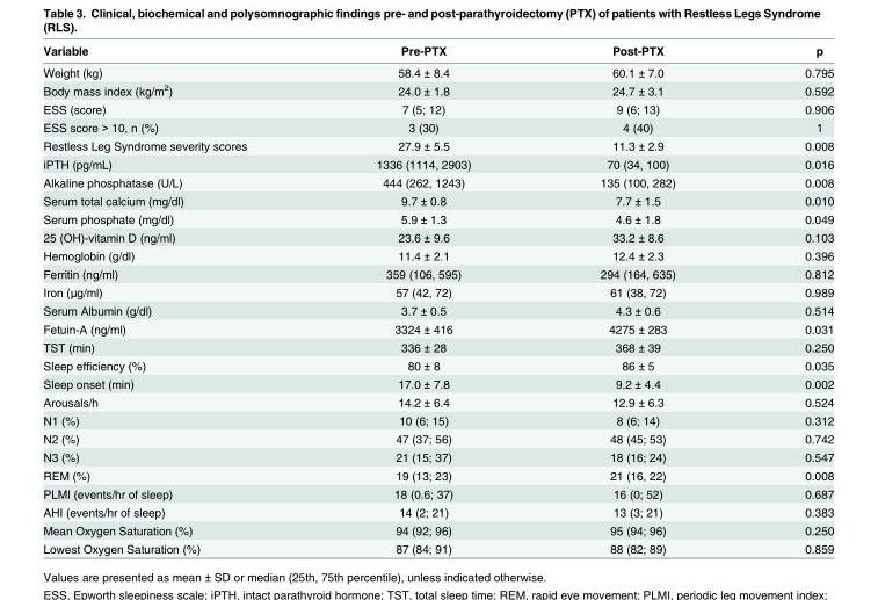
<table><thead><tr><td>Variable</td><td>Pre-PTX</td><td>Post-PTX</td><td>p</td></tr></thead><tbody><tr><td>Weight (kg)</td><td>58.4 ± 8.4</td><td>60.1 ± 7.0</td><td>0.795</td></tr><tr><td>Body mass index (kg/m<sup>2</sup>)</td><td>24.0 ± 1.8</td><td>24.7 ± 3.1</td><td>0.592</td></tr><tr><td>ESS (score)</td><td>7 (5; 12)</td><td>9 (6; 13)</td><td>0.906</td></tr><tr><td>ESS score &gt; 10, n (%)</td><td>3 (30)</td><td>4 (40)</td><td>1</td></tr><tr><td>Restless Leg Syndrome severity scores</td><td>27.9 ± 5.5</td><td>11.3 ± 2.9</td><td>0.008</td></tr><tr><td>iPTH (pg/mL)</td><td>1336 (1114, 2903)</td><td>70 (34, 100)</td><td>0.016</td></tr><tr><td>Alkaline phosphatase (U/L)</td><td>444 (262, 1243)</td><td>135 (100, 282)</td><td>0.008</td></tr><tr><td>Serum total calcium (mg/dl)</td><td>9.7 ± 0.8</td><td>7.7 ± 1.5</td><td>0.010</td></tr><tr><td>Serum phosphate (mg/dl)</td><td>5.9 ± 1.3</td><td>4.6 ± 1.8</td><td>0.049</td></tr><tr><td>25 (OH)-vitamin D (ng/ml)</td><td>23.6 ± 9.6</td><td>33.2 ± 8.6</td><td>0.103</td></tr><tr><td>Hemoglobin (g/dl)</td><td>11.4 ± 2.1</td><td>12.4 ± 2.3</td><td>0.396</td></tr><tr><td>Ferritin (ng/ml)</td><td>359 (106, 595)</td><td>294 (164, 635)</td><td>0.812</td></tr><tr><td>Iron (μg/ml)</td><td>57 (42, 72)</td><td>61 (38, 72)</td><td>0.989</td></tr><tr><td>Serum Albumin (g/dl)</td><td>3.7 ± 0.5</td><td>4.3 ± 0.6</td><td>0.514</td></tr><tr><td>Fetuin-A (ng/ml)</td><td>3324 ± 416</td><td>4275 ± 283</td><td>0.031</td></tr><tr><td>TST (min)</td><td>336 ± 28</td><td>368 ± 39</td><td>0.250</td></tr><tr><td>Sleep efficiency (%)</td><td>80 ± 8</td><td>86 ± 5</td><td>0.035</td></tr><tr><td>Sleep onset (min)</td><td>17.0 ± 7.8</td><td>9.2 ± 4.4</td><td>0.002</td></tr><tr><td>Arousals/h</td><td>14.2 ± 6.4</td><td>12.9 ± 6.3</td><td>0.524</td></tr><tr><td>N1 (%)</td><td>10 (6; 15)</td><td>8 (6; 14)</td><td>0.312</td></tr><tr><td>N2 (%)</td><td>47 (37; 56)</td><td>48 (45; 53)</td><td>0.742</td></tr><tr><td>N3 (%)</td><td>21 (15; 37)</td><td>18 (16; 24)</td><td>0.547</td></tr><tr><td>REM (%)</td><td>19 (13; 23)</td><td>21 (16, 22)</td><td>0.008</td></tr><tr><td>PLMI (events/hr of sleep)</td><td>18 (0.6; 37)</td><td>16 (0; 52)</td><td>0.687</td></tr><tr><td>AHI (events/hr of sleep)</td><td>14 (2; 21)</td><td>13 (3; 21)</td><td>0.383</td></tr><tr><td>Mean Oxygen Saturation (%)</td><td>94 (92; 96)</td><td>95 (94; 96)</td><td>0.250</td></tr><tr><td>Lowest Oxygen Saturation (%)</td><td>87 (84; 91)</td><td>88 (82; 89)</td><td>0.859</td></tr></tbody></table>